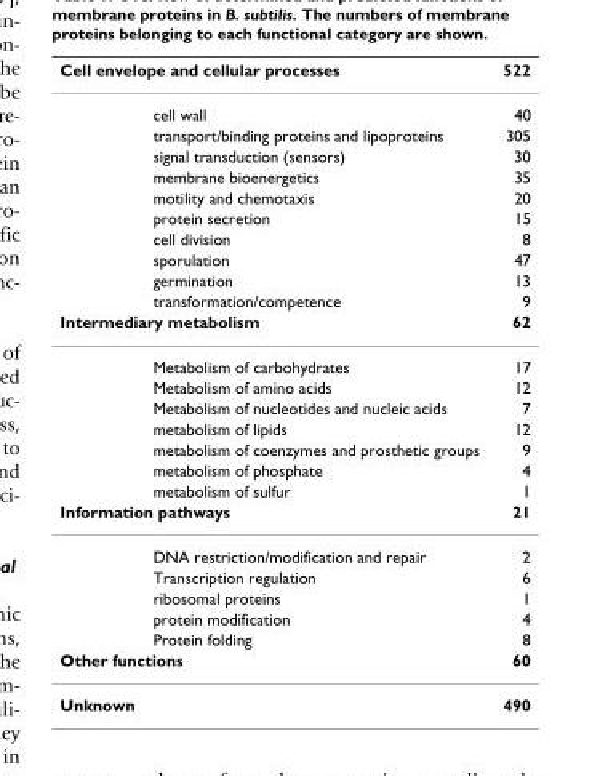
<table><thead><tr><td colspan="2">Cell envelope and cellular processes</td><td rowspan="2">522 40</td></tr><tr><td></td><td>cell wall</td></tr></thead><tbody><tr><td></td><td>transport/binding proteins and lipoproteins</td><td>305</td></tr><tr><td></td><td>signal transduction (sensors)</td><td>30</td></tr><tr><td></td><td>membrane bioenergetics</td><td>35</td></tr><tr><td></td><td>motility and chemotaxis</td><td>20</td></tr><tr><td></td><td>protein secretion</td><td>15</td></tr><tr><td></td><td>cell division</td><td>8</td></tr><tr><td></td><td>sporulation</td><td>47</td></tr><tr><td></td><td>germination</td><td>13</td></tr><tr><td></td><td>transformation/competence</td><td>9</td></tr><tr><td colspan="2">Intermediary metabolism</td><td>62</td></tr><tr><td></td><td>Metabolism of carbohydrates</td><td>17</td></tr><tr><td></td><td>Metabolism of amino acids</td><td>12</td></tr><tr><td></td><td>Metabolism of nucleotides and nucleic acids</td><td>7</td></tr><tr><td></td><td>metabolism of lipids</td><td>12</td></tr><tr><td></td><td>metabolism of coenzymes and prosthetic groups</td><td>9</td></tr><tr><td></td><td>metabolism of phosphate</td><td>4</td></tr><tr><td></td><td>metabolism of sulfur</td><td>1</td></tr><tr><td colspan="2">Information pathways</td><td>21</td></tr><tr><td></td><td>DNA restriction/modification and repair</td><td>2</td></tr><tr><td></td><td>Transcription regulation</td><td>6</td></tr><tr><td></td><td>ribosomal proteins</td><td>1</td></tr><tr><td></td><td>protein modification</td><td>4</td></tr><tr><td></td><td>Protein folding</td><td>8</td></tr><tr><td colspan="2">Other functions</td><td>60</td></tr><tr><td>Unknown</td><td></td><td>490</td></tr></tbody></table>